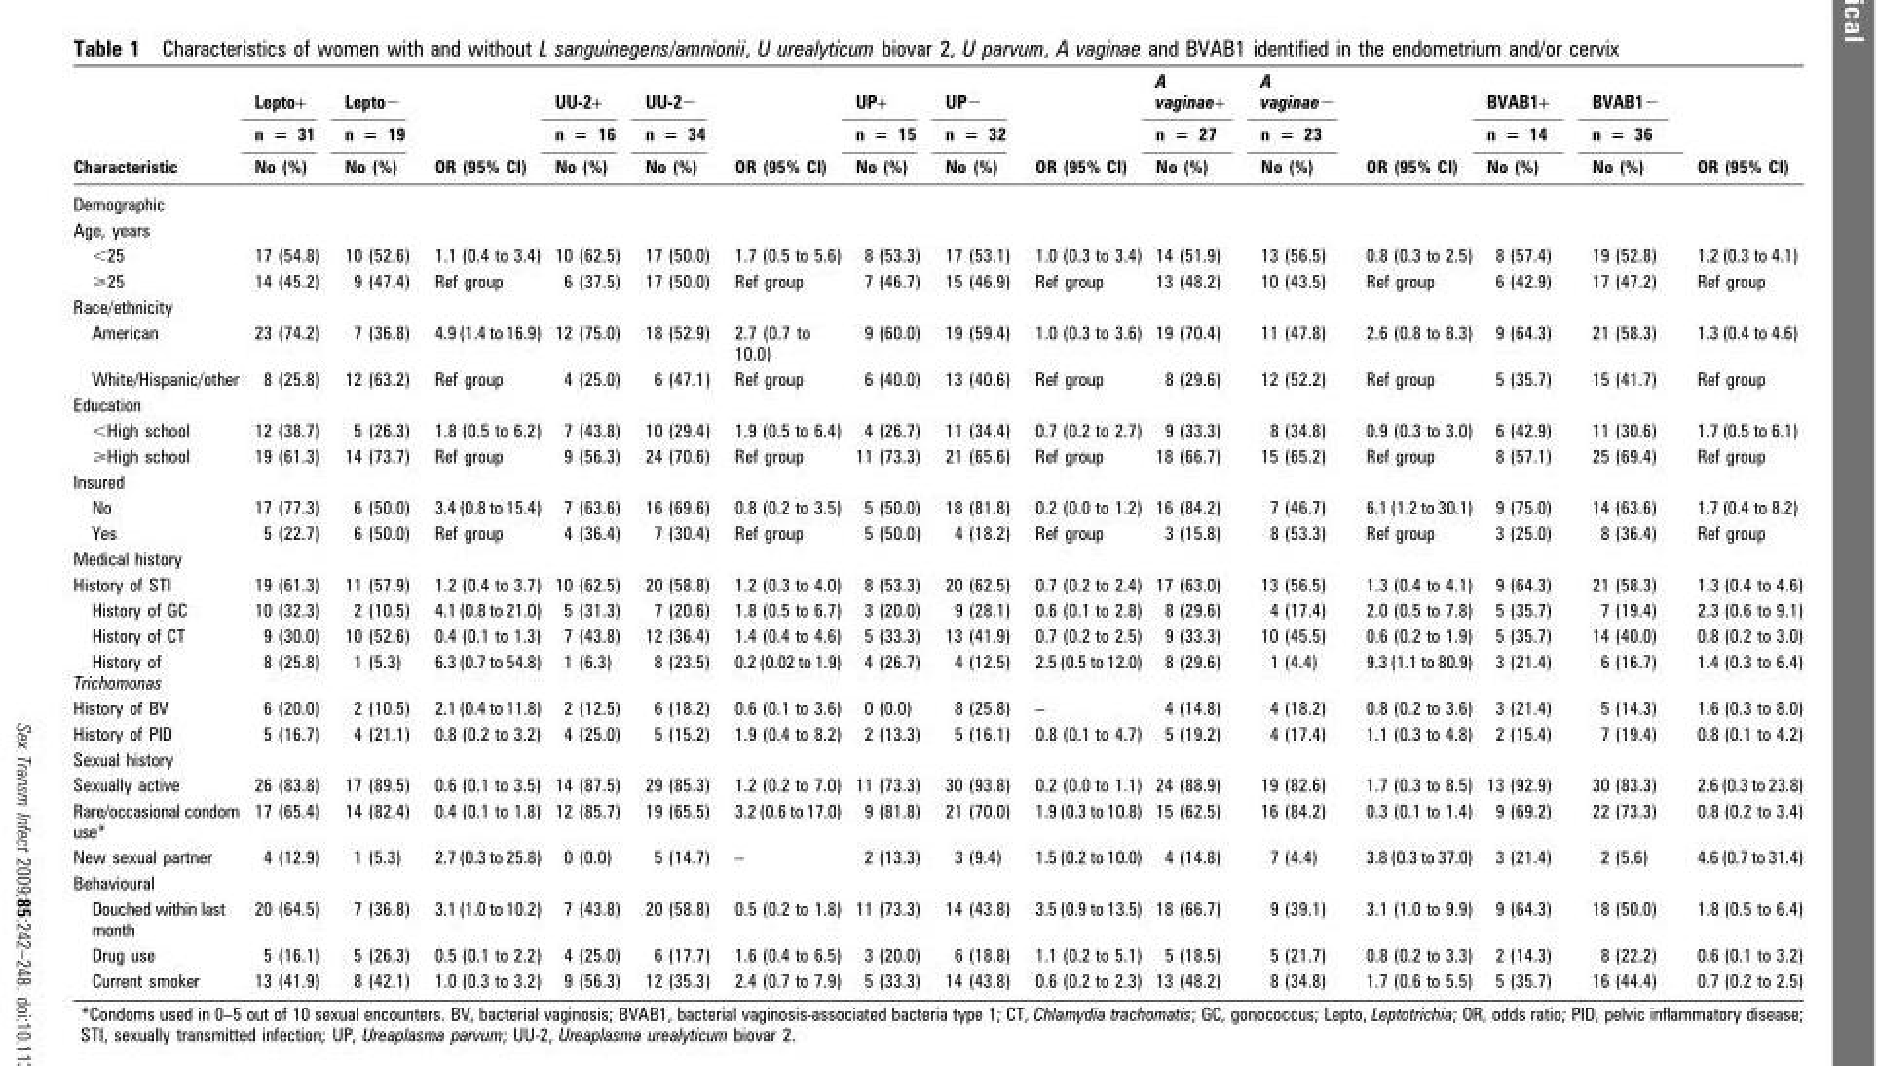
<table><thead><tr><td rowspan="3">Characteristic</td><td rowspan="3">Lepto+ n = 31 No (%)</td><td rowspan="3">Lepto− n = 19 No (%)</td><td rowspan="3">OR (95% CI)</td><td rowspan="3">UU-2+ n = 16 No (%)</td><td rowspan="3">UU-2− n = 34 No (%)</td><td rowspan="3">OR (95% CI)</td><td rowspan="3">UP+ n = 15 No (%)</td><td rowspan="3">UP− n = 32 No (%)</td><td rowspan="3">OR (95% CI)</td><td rowspan="3">A vaginae+ n = 27 No (%)</td><td rowspan="3">A vaginae− n = 23 No (%)</td><td rowspan="3">OR (95% CI)</td><td rowspan="3">BVAB1+ n = 14 No (%)</td><td rowspan="3">BVAB1− n = 36 No (%)</td><td rowspan="3">OR (95% CI)</td></tr><tr></tr><tr></tr></thead><tbody><tr><td colspan="16">Demographic</td></tr><tr><td colspan="16">Age, years</td></tr><tr><td>&lt;25</td><td>17 (54.8)</td><td>10 (52.6)</td><td>1.1 (0.4 to 3.4)</td><td>10 (62.5)</td><td>17 (50.0)</td><td>1.7 (0.5 to 5.6)</td><td>8 (53.3)</td><td>17 (53.1)</td><td>1.0 (0.3 to 3.4)</td><td>14 (51.9)</td><td>13 (56.5)</td><td>0.8 (0.3 to 2.5)</td><td>8 (57.4)</td><td>19 (52.8)</td><td>1.2 (0.3 to 4.1)</td></tr><tr><td>&gt;25</td><td>14 (45.2)</td><td>9 (47.4)</td><td>Ref group</td><td>6 (37.5)</td><td>17 (50.0)</td><td>Ref group</td><td>7 (46.7)</td><td>15 (46.9)</td><td>Ref group</td><td>13 (48.2)</td><td>10 (43.5)</td><td>Ref group</td><td>6 (42.9)</td><td>17 (47.2)</td><td>Ref group</td></tr><tr><td colspan="16">Race/ethnicity</td></tr><tr><td>American</td><td>23 (74.2)</td><td>7 (36.8)</td><td>4.9 (1.4 to 16.9)</td><td>12 (75.0)</td><td>18 (52.9)</td><td>2.7 (0.7 to 10.0)</td><td>9 (60.0)</td><td>19 (59.4)</td><td>1.0 (0.3 to 3.6)</td><td>19 (70.4)</td><td>11 (47.8)</td><td>2.6 (0.8 to 8.3)</td><td>9 (64.3)</td><td>21 (58.3)</td><td>1.3 (0.4 to 4.6)</td></tr><tr><td>White/Hispanic/other</td><td>8 (25.8)</td><td>12 (63.2)</td><td>Ref group</td><td>4 (25.0)</td><td>6 (47.1)</td><td>Ref group</td><td>6 (40.0)</td><td>13 (40.6)</td><td>Ref group</td><td>8 (29.6)</td><td>12 (52.2)</td><td>Ref group</td><td>5 (35.7)</td><td>15 (41.7)</td><td>Ref group</td></tr><tr><td colspan="16">Education</td></tr><tr><td>&lt;High school</td><td>12 (38.7)</td><td>5 (26.3)</td><td>1.8 (0.5 to 6.2)</td><td>7 (43.8)</td><td>10 (29.4)</td><td>1.9 (0.5 to 6.4)</td><td>4 (26.7)</td><td>11 (34.4)</td><td>0.7 (0.2 to 2.7)</td><td>9 (33.3)</td><td>8 (34.8)</td><td>0.9 (0.3 to 3.0)</td><td>6 (42.9)</td><td>11 (30.6)</td><td>1.7 (0.5 to 6.1)</td></tr><tr><td>&gt;High school</td><td>19 (61.3)</td><td>14 (73.7)</td><td>Ref group</td><td>9 (56.3)</td><td>24 (70.6)</td><td>Ref group</td><td>11 (73.3)</td><td>21 (65.6)</td><td>Ref group</td><td>18 (66.7)</td><td>15 (65.2)</td><td>Ref group</td><td>8 (57.1)</td><td>25 (69.4)</td><td>Ref group</td></tr><tr><td colspan="16">Insured</td></tr><tr><td>No</td><td>17 (77.3)</td><td>6 (50.0)</td><td>3.4 (0.8 to 15.4)</td><td>7 (63.6)</td><td>16 (69.6)</td><td>0.8 (0.2 to 3.5)</td><td>5 (50.0)</td><td>18 (81.8)</td><td>0.2 (0.0 to 1.2)</td><td>16 (84.2)</td><td>7 (46.7)</td><td>6.1 (1.2 to 30.1)</td><td>9 (75.0)</td><td>14 (63.6)</td><td>1.7 (0.4 to 8.2)</td></tr><tr><td>Yes</td><td>5 (22.7)</td><td>6 (50.0)</td><td>Ref group</td><td>4 (36.4)</td><td>7 (30.4)</td><td>Ref group</td><td>5 (50.0)</td><td>4 (18.2)</td><td>Ref group</td><td>3 (15.8)</td><td>8 (53.3)</td><td>Ref group</td><td>3 (25.0)</td><td>8 (36.4)</td><td>Ref group</td></tr><tr><td colspan="16">Medical history</td></tr><tr><td>History of STI</td><td>19 (61.3)</td><td>11 (57.9)</td><td>1.2 (0.4 to 3.7)</td><td>10 (62.5)</td><td>20 (58.8)</td><td>1.2 (0.3 to 4.0)</td><td>8 (53.3)</td><td>20 (62.5)</td><td>0.7 (0.2 to 2.4)</td><td>17 (63.0)</td><td>13 (56.5)</td><td>1.3 (0.4 to 4.1)</td><td>9 (64.3)</td><td>21 (58.3)</td><td>1.3 (0.4 to 4.6)</td></tr><tr><td>History of GC</td><td>10 (32.3)</td><td>2 (10.5)</td><td>4.1 (0.8 to 21.0)</td><td>5 (31.3)</td><td>7 (20.6)</td><td>1.8 (0.5 to 6.7)</td><td>3 (20.0)</td><td>9 (28.1)</td><td>0.6 (0.1 to 2.8)</td><td>8 (29.6)</td><td>4 (17.4)</td><td>2.0 (0.5 to 7.8)</td><td>5 (35.7)</td><td>7 (19.4)</td><td>2.3 (0.6 to 9.1)</td></tr><tr><td>History of CT</td><td>9 (30.0)</td><td>10 (52.6)</td><td>0.4 (0.1 to 1.3)</td><td>7 (43.8)</td><td>12 (36.4)</td><td>1.4 (0.4 to 4.6)</td><td>5 (33.3)</td><td>13 (41.9)</td><td>0.7 (0.2 to 2.5)</td><td>9 (33.3)</td><td>10 (45.5)</td><td>0.6 (0.2 to 1.9)</td><td>5 (35.7)</td><td>14 (40.0)</td><td>0.8 (0.2 to 3.0)</td></tr><tr><td>History of Trichomonas</td><td>8 (25.8)</td><td>1 (5.3)</td><td>6.3 (0.7 to 54.8)</td><td>1 (6.3)</td><td>8 (23.5)</td><td>0.2 (0.02 to 1.9)</td><td>4 (26.7)</td><td>4 (12.5)</td><td>2.5 (0.5 to 12.0)</td><td>8 (29.6)</td><td>1 (4.4)</td><td>9.3 (1.1 to 80.9)</td><td>3 (21.4)</td><td>6 (16.7)</td><td>1.4 (0.3 to 6.4)</td></tr><tr><td>History of BV</td><td>6 (20.0)</td><td>2 (10.5)</td><td>2.1 (0.4 to 11.8)</td><td>2 (12.5)</td><td>6 (18.2)</td><td>0.6 (0.1 to 3.6)</td><td>0 (0.0)</td><td>8 (25.8)</td><td>–</td><td>4 (14.8)</td><td>4 (18.2)</td><td>0.8 (0.2 to 3.6)</td><td>3 (21.4)</td><td>5 (14.3)</td><td>1.6 (0.3 to 8.0)</td></tr><tr><td>History of PID</td><td>5 (16.7)</td><td>4 (21.1)</td><td>0.8 (0.2 to 3.2)</td><td>4 (25.0)</td><td>5 (15.2)</td><td>1.9 (0.4 to 8.2)</td><td>2 (13.3)</td><td>5 (16.1)</td><td>0.8 (0.1 to 4.7)</td><td>5 (19.2)</td><td>4 (17.4)</td><td>1.1 (0.3 to 4.8)</td><td>2 (15.4)</td><td>7 (19.4)</td><td>0.8 (0.1 to 4.2)</td></tr><tr><td colspan="16">Sexual history</td></tr><tr><td>Sexually active</td><td>26 (83.8)</td><td>17 (89.5)</td><td>0.6 (0.1 to 3.5)</td><td>14 (87.5)</td><td>29 (85.3)</td><td>1.2 (0.2 to 7.0)</td><td>11 (73.3)</td><td>30 (93.8)</td><td>0.2 (0.0 to 1.1)</td><td>24 (88.9)</td><td>19 (82.6)</td><td>1.7 (0.3 to 8.5)</td><td>13 (92.9)</td><td>30 (83.3)</td><td>2.6 (0.3 to 23.8)</td></tr><tr><td>Rare/occasional condom use*</td><td>17 (65.4)</td><td>14 (82.4)</td><td>0.4 (0.1 to 1.8)</td><td>12 (85.7)</td><td>19 (65.5)</td><td>3.2 (0.6 to 17.0)</td><td>9 (81.8)</td><td>21 (70.0)</td><td>1.9 (0.3 to 10.8)</td><td>15 (62.5)</td><td>16 (84.2)</td><td>0.3 (0.1 to 1.4)</td><td>9 (69.2)</td><td>22 (73.3)</td><td>0.8 (0.2 to 3.4)</td></tr><tr><td>New sexual partner</td><td>4 (12.9)</td><td>1 (5.3)</td><td>2.7 (0.3 to 25.8)</td><td>0 (0.0)</td><td>5 (14.7)</td><td>–</td><td>2 (13.3)</td><td>3 (9.4)</td><td>1.5 (0.2 to 10.0)</td><td>4 (14.8)</td><td>7 (4.4)</td><td>3.8 (0.3 to 37.0)</td><td>3 (21.4)</td><td>2 (5.6)</td><td>4.6 (0.7 to 31.4)</td></tr><tr><td colspan="16">Behavioural</td></tr><tr><td>Douched within last month</td><td>20 (64.5)</td><td>7 (36.8)</td><td>3.1 (1.0 to 10.2)</td><td>7 (43.8)</td><td>20 (58.8)</td><td>0.5 (0.2 to 1.8)</td><td>11 (73.3)</td><td>14 (43.8)</td><td>3.5 (0.9 to 13.5)</td><td>18 (66.7)</td><td>9 (39.1)</td><td>3.1 (1.0 to 9.9)</td><td>9 (64.3)</td><td>18 (50.0)</td><td>1.8 (0.5 to 6.4)</td></tr><tr><td>Drug use</td><td>5 (16.1)</td><td>5 (26.3)</td><td>0.5 (0.1 to 2.2)</td><td>4 (25.0)</td><td>6 (17.7)</td><td>1.6 (0.4 to 6.5)</td><td>3 (20.0)</td><td>6 (18.8)</td><td>1.1 (0.2 to 5.1)</td><td>5 (18.5)</td><td>5 (21.7)</td><td>0.8 (0.2 to 3.3)</td><td>2 (14.3)</td><td>8 (22.2)</td><td>0.6 (0.1 to 3.2)</td></tr><tr><td>Current smoker</td><td>13 (41.9)</td><td>8 (42.1)</td><td>1.0 (0.3 to 3.2)</td><td>9 (56.3)</td><td>12 (35.3)</td><td>2.4 (0.7 to 7.9)</td><td>5 (33.3)</td><td>14 (43.8)</td><td>0.6 (0.2 to 2.3)</td><td>13 (48.2)</td><td>8 (34.8)</td><td>1.7 (0.6 to 5.5)</td><td>5 (35.7)</td><td>16 (44.4)</td><td>0.7 (0.2 to 2.5)</td></tr></tbody></table>